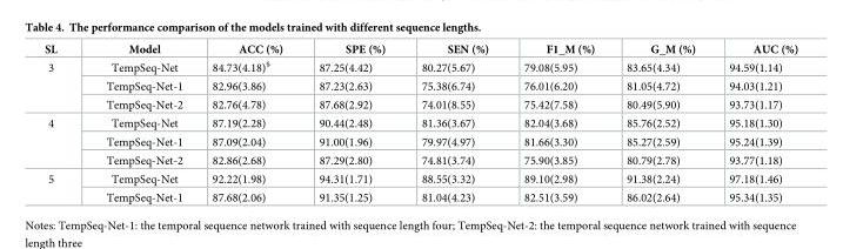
<table><thead><tr><td>SL</td><td>Model</td><td>ACC (%)</td><td>SPE (%)</td><td>SEN (%)</td><td>F1_M (%)</td><td>G_M (%)</td><td>AUC (%)</td></tr></thead><tbody><tr><td rowspan="3">3</td><td>TempSeq-Net</td><td>84.73(4.18)<sup>§</sup></td><td>87.25(4.42)</td><td>80.27(5.67)</td><td>79.08(5.95)</td><td>83.65(4.34)</td><td>94.59(1.14)</td></tr><tr><td>TempSeq-Net-1</td><td>82.96(3.86)</td><td>87.23(2.63)</td><td>75.38(6.74)</td><td>76.01(6.20)</td><td>81.05(4.72)</td><td>94.03(1.21)</td></tr><tr><td>TempSeq-Net-2</td><td>82.76(4.78)</td><td>87.68(2.92)</td><td>74.01(8.55)</td><td>75.42(7.58)</td><td>80.49(5.90)</td><td>93.73(1.17)</td></tr><tr><td rowspan="3">4</td><td>TempSeq-Net</td><td>87.19(2.28)</td><td>90.44(2.48)</td><td>81.36(3.67)</td><td>82.04(3.68)</td><td>85.76(2.52)</td><td>95.18(1.30)</td></tr><tr><td>TempSeq-Net-1</td><td>87.09(2.04)</td><td>91.00(1.96)</td><td>79.97(4.97)</td><td>81.66(3.30)</td><td>85.27(2.59)</td><td>95.24(1.39)</td></tr><tr><td>TempSeq-Net-2</td><td>82.86(2.68)</td><td>87.29(2.80)</td><td>74.81(3.74)</td><td>75.90(3.85)</td><td>80.79(2.78)</td><td>93.77(1.18)</td></tr><tr><td rowspan="2">5</td><td>TempSeq-Net</td><td>92.22(1.98)</td><td>94.31(1.71)</td><td>88.55(3.32)</td><td>89.10(2.98)</td><td>91.38(2.24)</td><td>97.18(1.46)</td></tr><tr><td>TempSeq-Net-1</td><td>87.68(2.06)</td><td>91.35(1.25)</td><td>81.04(4.23)</td><td>82.51(3.59)</td><td>86.02(2.64)</td><td>95.34(1.35)</td></tr></tbody></table>